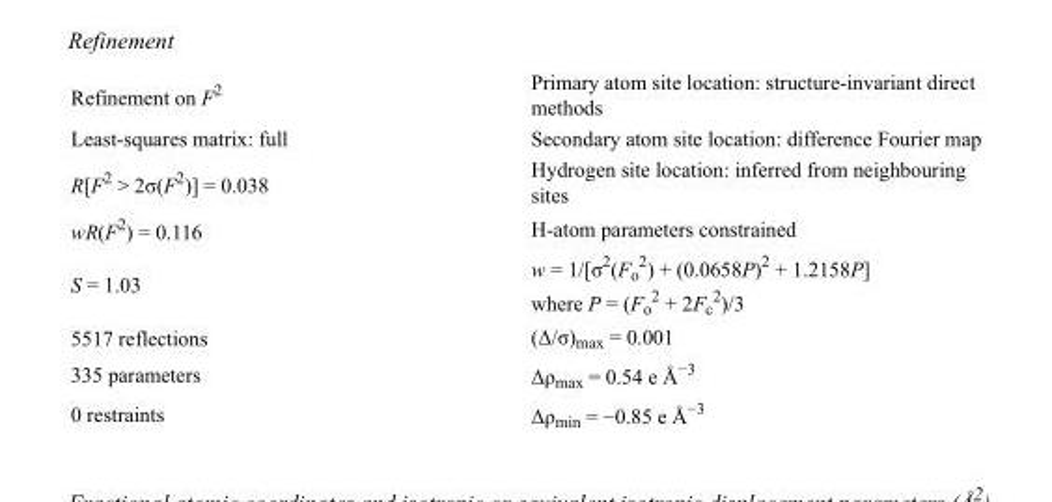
<table><tbody><tr><td>Refinement on F<sup>2</sup></td><td>Primary atom site location: structure-invariant direct methods</td></tr><tr><td>Least-squares matrix: full</td><td>Secondary atom site location: difference Fourier map</td></tr><tr><td>R[F<sup>2</sup> &gt; 2σ(F<sup>2</sup>)] = 0.038</td><td>Hydrogen site location: inferred from neighbouring sites</td></tr><tr><td>wR(F<sup>2</sup>) = 0.116</td><td>H-atom parameters constrained</td></tr><tr><td>S = 1.03</td><td>w = 1/[σ<sup>2</sup>(F<sub>o</sub> <sup>2</sup>) + (0.0658P)<sup>2</sup> + 1.2158P] where P = (F<sub>o</sub> <sup>2</sup> + 2F<sub>c</sub> <sup>2</sup>)/3</td></tr><tr><td>5517 reflections</td><td>(Δ/σ)<sub>max</sub> = 0.001</td></tr><tr><td>335 parameters</td><td>Δρ<sub>max</sub> = 0.54 e Å<sup>−3</sup></td></tr><tr><td>0 restraints</td><td>Δρ<sub>min</sub> = −0.85 e Å<sup>−3</sup></td></tr></tbody></table>